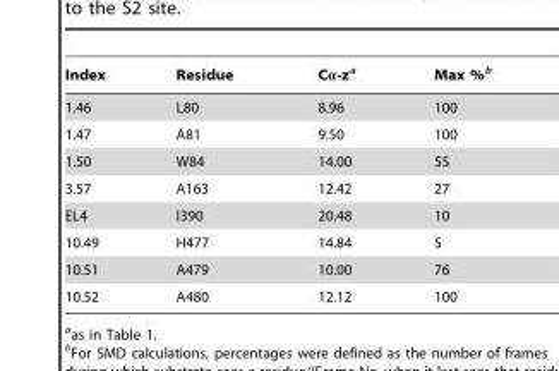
<table><thead><tr><td>Index</td><td>Residue</td><td>Cα-z<sup>a</sup></td><td>Max %<sup>b</sup></td></tr></thead><tbody><tr><td>1.46</td><td>L80</td><td>8.96</td><td>100</td></tr><tr><td>1.47</td><td>A81</td><td>9.50</td><td>100</td></tr><tr><td>1.50</td><td>W84</td><td>14.00</td><td>55</td></tr><tr><td>3.57</td><td>A163</td><td>12.42</td><td>27</td></tr><tr><td>EL4</td><td>I390</td><td>20.48</td><td>10</td></tr><tr><td>10.49</td><td>H477</td><td>14.84</td><td>5</td></tr><tr><td>10.51</td><td>A479</td><td>10.00</td><td>76</td></tr><tr><td>10.52</td><td>A480</td><td>12.12</td><td>100</td></tr></tbody></table>